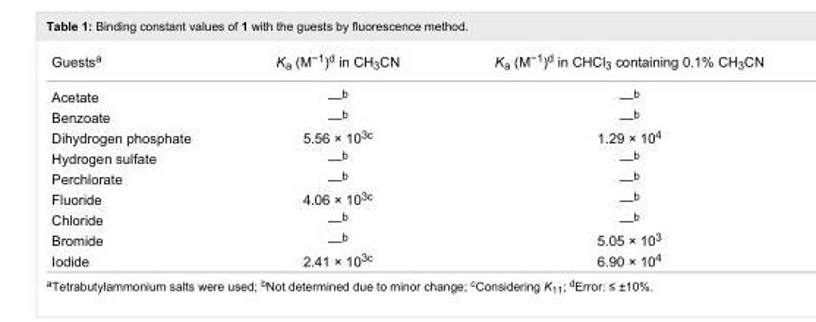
<table><tbody><tr><td>Guests<sup>a</sup></td><td>K<sub>a</sub> (M<sup>−1</sup>)<sup>d</sup> in CH<sub>3</sub>CN</td><td>K<sub>a</sub> (M<sup>−1</sup>)<sup>d</sup> in CHCl<sub>3</sub> containing 0.1% CH<sub>3</sub>CN</td></tr><tr><td>Acetate</td><td>—<sup>b</sup></td><td>—<sup>b</sup></td></tr><tr><td>Benzoate</td><td>—<sup>b</sup></td><td>—<sup>b</sup></td></tr><tr><td>Dihydrogen phosphate</td><td>5.56 × 10<sup>3c</sup></td><td>1.29 × 10<sup>4</sup></td></tr><tr><td>Hydrogen sulfate</td><td>—<sup>b</sup></td><td>—<sup>b</sup></td></tr><tr><td>Perchlorate</td><td>—<sup>b</sup></td><td>—<sup>b</sup></td></tr><tr><td>Fluoride</td><td>4.06 × 10<sup>3c</sup></td><td>—<sup>b</sup></td></tr><tr><td>Chloride</td><td>—<sup>b</sup></td><td>—<sup>b</sup></td></tr><tr><td>Bromide</td><td>—<sup>b</sup></td><td>5.05 × 10<sup>3</sup></td></tr><tr><td>Iodide</td><td>2.41 × 10<sup>3c</sup></td><td>6.90 × 10<sup>4</sup></td></tr></tbody></table>